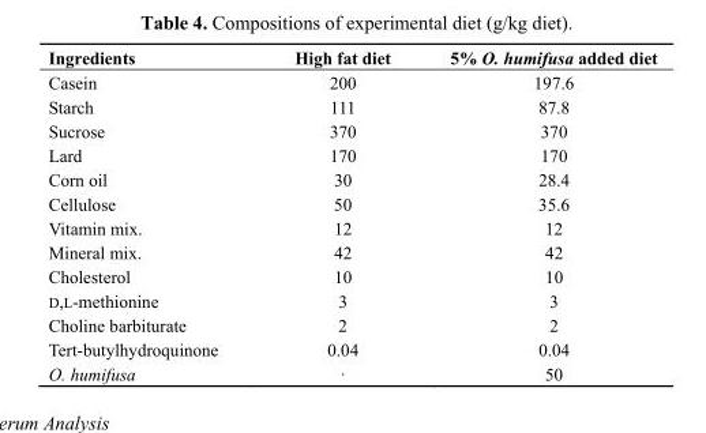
<table><thead><tr><td>Ingredients</td><td>High fat diet</td><td>5% O. humifusa added diet</td></tr></thead><tbody><tr><td>Casein</td><td>200</td><td>197.6</td></tr><tr><td>Starch</td><td>111</td><td>87.8</td></tr><tr><td>Sucrose</td><td>370</td><td>370</td></tr><tr><td>Lard</td><td>170</td><td>170</td></tr><tr><td>Corn oil</td><td>30</td><td>28.4</td></tr><tr><td>Cellulose</td><td>50</td><td>35.6</td></tr><tr><td>Vitamin mix.</td><td>12</td><td>12</td></tr><tr><td>Mineral mix.</td><td>42</td><td>42</td></tr><tr><td>Cholesterol</td><td>10</td><td>10</td></tr><tr><td>D,L-methionine</td><td>3</td><td>3</td></tr><tr><td>Choline barbiturate</td><td>2</td><td>2</td></tr><tr><td>Tert-butylhydroquinone</td><td>0.04</td><td>0.04</td></tr><tr><td>O. humifusa</td><td>·</td><td>50</td></tr></tbody></table>